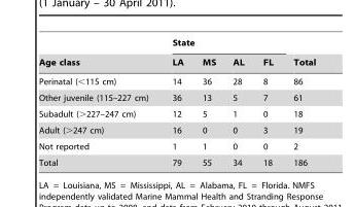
<table><thead><tr><td rowspan="2">Age class</td><td colspan="4">State</td><td rowspan="2">Total</td></tr><tr><td>LA</td><td>MS</td><td>AL</td><td>FL</td></tr></thead><tbody><tr><td>Perinatal (&lt;115 cm)</td><td>14</td><td>36</td><td>28</td><td>8</td><td>86</td></tr><tr><td>Other juvenile (115–227 cm)</td><td>36</td><td>13</td><td>5</td><td>7</td><td>61</td></tr><tr><td>Subadult (&gt;227–247 cm)</td><td>12</td><td>5</td><td>1</td><td>0</td><td>18</td></tr><tr><td>Adult (&gt;247 cm)</td><td>16</td><td>0</td><td>0</td><td>3</td><td>19</td></tr><tr><td>Not reported</td><td>1</td><td>1</td><td>0</td><td>0</td><td>2</td></tr><tr><td>Total</td><td>79</td><td>55</td><td>34</td><td>18</td><td>186</td></tr></tbody></table>